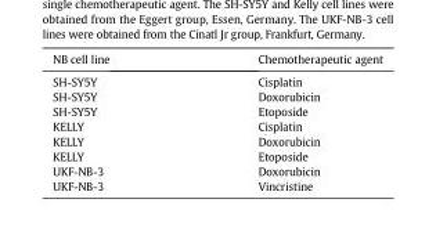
<table><thead><tr><td>NB cell line</td><td>Chemotherapeutic agent</td></tr></thead><tbody><tr><td>SH-SY5Y</td><td>Cisplatin</td></tr><tr><td>SH-SY5Y</td><td>Doxorubicin</td></tr><tr><td>SH-SY5Y</td><td>Etoposide</td></tr><tr><td>KELLY</td><td>Cisplatin</td></tr><tr><td>KELLY</td><td>Doxorubicin</td></tr><tr><td>KELLY</td><td>Etoposide</td></tr><tr><td>UKF-NB-3</td><td>Doxorubicin</td></tr><tr><td>UKF-NB-3</td><td>Vincristine</td></tr></tbody></table>